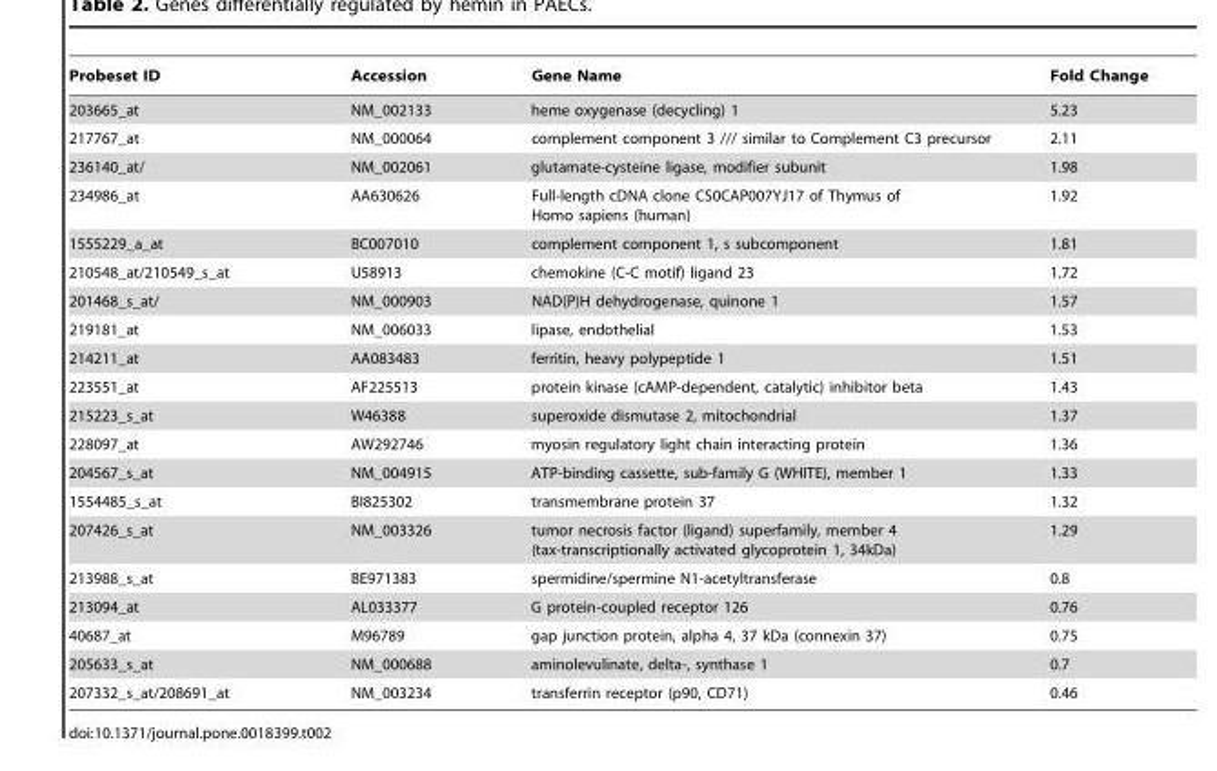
<table><thead><tr><td>Probeset ID</td><td>Accession</td><td>Gene Name</td><td>Fold Change</td></tr></thead><tbody><tr><td>203665_at</td><td>NM_002133</td><td>heme oxygenase (decycling) 1</td><td>5.23</td></tr><tr><td>217767_at</td><td>NM_000064</td><td>complement component 3 /// similar to Complement C3 precursor</td><td>2.11</td></tr><tr><td>236140_at/</td><td>NM_002061</td><td>glutamate-cysteine ligase, modifier subunit</td><td>1.98</td></tr><tr><td>234986_at</td><td>AA630626</td><td>Full-length cDNA clone CS0CAP007YJ17 of Thymus of Homo sapiens (human)</td><td>1.92</td></tr><tr><td>1555229_a_at</td><td>BC007010</td><td>complement component 1, s subcomponent</td><td>1.81</td></tr><tr><td>210548_at/210549_s_at</td><td>U58913</td><td>chemokine (C-C motif) ligand 23</td><td>1.72</td></tr><tr><td>201468_s_at/</td><td>NM_000903</td><td>NAD(P)H dehydrogenase, quinone 1</td><td>1.57</td></tr><tr><td>219181_at</td><td>NM_006033</td><td>lipase, endothelial</td><td>1.53</td></tr><tr><td>214211_at</td><td>AA083483</td><td>ferritin, heavy polypeptide 1</td><td>1.51</td></tr><tr><td>223551_at</td><td>AF225513</td><td>protein kinase (cAMP-dependent, catalytic) inhibitor beta</td><td>1.43</td></tr><tr><td>215223_s_at</td><td>W46388</td><td>superoxide dismutase 2, mitochondrial</td><td>1.37</td></tr><tr><td>228097_at</td><td>AW292746</td><td>myosin regulatory light chain interacting protein</td><td>1.36</td></tr><tr><td>204567_s_at</td><td>NM_004915</td><td>ATP-binding cassette, sub-family G (WHITE), member 1</td><td>1.33</td></tr><tr><td>1554485_s_at</td><td>BI825302</td><td>transmembrane protein 37</td><td>1.32</td></tr><tr><td>207426_s_at</td><td>NM_003326</td><td>tumor necrosis factor (ligand) superfamily, member 4 (tax-transcriptionally activated glycoprotein 1, 34kDa)</td><td>1.29</td></tr><tr><td>213988_s_at</td><td>BE971383</td><td>spermidine/spermine N1-acetyltransferase</td><td>0.8</td></tr><tr><td>213094_at</td><td>AL033377</td><td>G protein-coupled receptor 126</td><td>0.76</td></tr><tr><td>40687_at</td><td>M96789</td><td>gap junction protein, alpha 4, 37 kDa (connexin 37)</td><td>0.75</td></tr><tr><td>205633_s_at</td><td>NM_000688</td><td>aminolevulinate, delta-, synthase 1</td><td>0.7</td></tr><tr><td>207332_s_at/208691_at</td><td>NM_003234</td><td>transferrin receptor (p90, CD71)</td><td>0.46</td></tr></tbody></table>